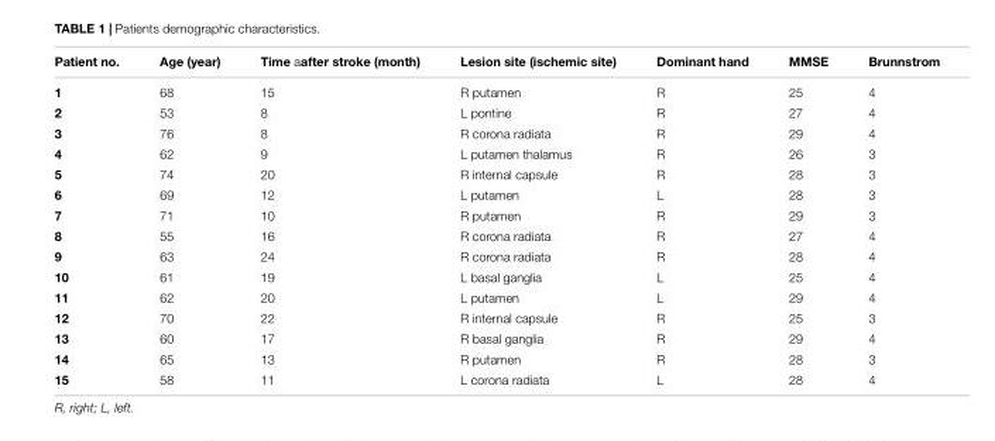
<table><thead><tr><td>Patient no.</td><td>Age (year)</td><td>Time aafter stroke (month)</td><td>Lesion site (ischemic site)</td><td>Dominant hand</td><td>MMSE</td><td>Brunnstrom</td></tr></thead><tbody><tr><td>1</td><td>68</td><td>15</td><td>R putamen</td><td>R</td><td>25</td><td>4</td></tr><tr><td>2</td><td>53</td><td>8</td><td>L pontine</td><td>R</td><td>27</td><td>4</td></tr><tr><td>3</td><td>76</td><td>8</td><td>R corona radiata</td><td>R</td><td>29</td><td>4</td></tr><tr><td>4</td><td>62</td><td>9</td><td>L putamen thalamus</td><td>R</td><td>26</td><td>3</td></tr><tr><td>5</td><td>74</td><td>20</td><td>R internal capsule</td><td>R</td><td>28</td><td>3</td></tr><tr><td>6</td><td>69</td><td>12</td><td>L putamen</td><td>L</td><td>28</td><td>3</td></tr><tr><td>7</td><td>71</td><td>10</td><td>R putamen</td><td>R</td><td>29</td><td>3</td></tr><tr><td>8</td><td>55</td><td>16</td><td>R corona radiata</td><td>R</td><td>27</td><td>4</td></tr><tr><td>9</td><td>63</td><td>24</td><td>R corona radiata</td><td>R</td><td>28</td><td>4</td></tr><tr><td>10</td><td>61</td><td>19</td><td>L basal ganglia</td><td>L</td><td>25</td><td>4</td></tr><tr><td>11</td><td>62</td><td>20</td><td>L putamen</td><td>L</td><td>29</td><td>4</td></tr><tr><td>12</td><td>70</td><td>22</td><td>R internal capsule</td><td>R</td><td>25</td><td>3</td></tr><tr><td>13</td><td>60</td><td>17</td><td>R basal ganglia</td><td>R</td><td>29</td><td>4</td></tr><tr><td>14</td><td>65</td><td>13</td><td>R putamen</td><td>R</td><td>28</td><td>3</td></tr><tr><td>15</td><td>58</td><td>11</td><td>L corona radiata</td><td>L</td><td>28</td><td>4</td></tr></tbody></table>